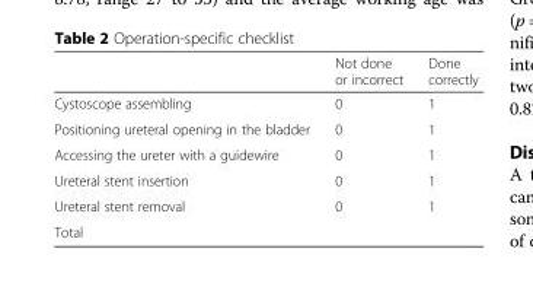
<table><thead><tr><td></td><td>Not done or incorrect</td><td>Done correctly</td></tr></thead><tbody><tr><td>Cystoscope assembling</td><td>0</td><td>1</td></tr><tr><td>Positioning ureteral opening in the bladder</td><td>0</td><td>1</td></tr><tr><td>Accessing the ureter with a guidewire</td><td>0</td><td>1</td></tr><tr><td>Ureteral stent insertion</td><td>0</td><td>1</td></tr><tr><td>Ureteral stent removal</td><td>0</td><td>1</td></tr><tr><td>Total</td><td></td><td></td></tr></tbody></table>